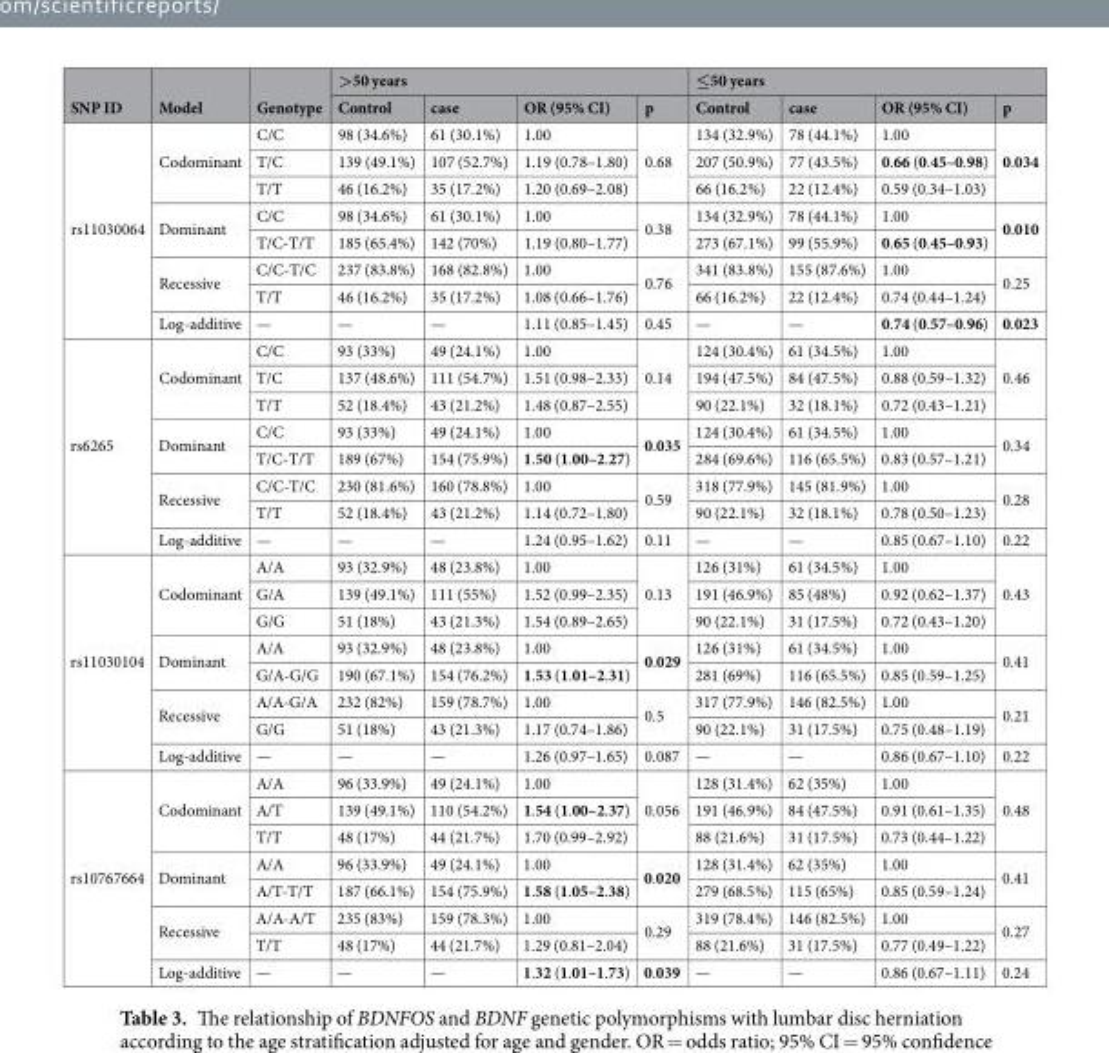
<table><thead><tr><td rowspan="2">SNP ID</td><td rowspan="2">Model</td><td rowspan="2">Genotype</td><td colspan="4">&gt;50 years</td><td colspan="4">≤50 years</td></tr><tr><td>Control</td><td>case</td><td>OR (95% CI)</td><td>p</td><td>Control</td><td>case</td><td>OR (95% CI)</td><td>p</td></tr></thead><tbody><tr><td rowspan="8">rs11030064</td><td rowspan="3">Codominant</td><td>C/C</td><td>98 (34.6%)</td><td>61 (30.1%)</td><td>1.00</td><td rowspan="3">0.68</td><td>134 (32.9%)</td><td>78 (44.1%)</td><td>1.00</td><td rowspan="3">0.034</td></tr><tr><td>T/C</td><td>139 (49.1%)</td><td>107 (52.7%)</td><td>1.19 (0.78–1.80)</td><td>207 (50.9%)</td><td>77 (43.5%)</td><td>0.66 (0.45–0.98)</td></tr><tr><td>T/T</td><td>46 (16.2%)</td><td>35 (17.2%)</td><td>1.20 (0.69–2.08)</td><td>66 (16.2%)</td><td>22 (12.4%)</td><td>0.59 (0.34–1.03)</td></tr><tr><td rowspan="2">Dominant</td><td>C/C</td><td>98 (34.6%)</td><td>61 (30.1%)</td><td>1.00</td><td rowspan="2">0.38</td><td>134 (32.9%)</td><td>78 (44.1%)</td><td>1.00</td><td rowspan="2">0.010</td></tr><tr><td>T/C-T/T</td><td>185 (65.4%)</td><td>142 (70%)</td><td>1.19 (0.80–1.77)</td><td>273 (67.1%)</td><td>99 (55.9%)</td><td>0.65 (0.45–0.93)</td></tr><tr><td rowspan="2">Recessive</td><td>C/C-T/C</td><td>237 (83.8%)</td><td>168 (82.8%)</td><td>1.00</td><td rowspan="2">0.76</td><td>341 (83.8%)</td><td>155 (87.6%)</td><td>1.00</td><td rowspan="2">0.25</td></tr><tr><td>T/T</td><td>46 (16.2%)</td><td>35 (17.2%)</td><td>1.08 (0.66–1.76)</td><td>66 (16.2%)</td><td>22 (12.4%)</td><td>0.74 (0.44–1.24)</td></tr><tr><td>Log-additive</td><td>—</td><td>—</td><td>—</td><td>1.11 (0.85–1.45)</td><td>0.45</td><td>—</td><td>—</td><td>0.74 (0.57–0.96)</td><td>0.023</td></tr><tr><td rowspan="8">rs6265</td><td rowspan="3">Codominant</td><td>C/C</td><td>93 (33%)</td><td>49 (24.1%)</td><td>1.00</td><td rowspan="3">0.14</td><td>124 (30.4%)</td><td>61 (34.5%)</td><td>1.00</td><td rowspan="3">0.46</td></tr><tr><td>T/C</td><td>137 (48.6%)</td><td>111 (54.7%)</td><td>1.51 (0.98–2.33)</td><td>194 (47.5%)</td><td>84 (47.5%)</td><td>0.88 (0.59–1.32)</td></tr><tr><td>T/T</td><td>52 (18.4%)</td><td>43 (21.2%)</td><td>1.48 (0.87–2.55)</td><td>90 (22.1%)</td><td>32 (18.1%)</td><td>0.72 (0.43–1.21)</td></tr><tr><td rowspan="2">Dominant</td><td>C/C</td><td>93 (33%)</td><td>49 (24.1%)</td><td>1.00</td><td rowspan="2">0.035</td><td>124 (30.4%)</td><td>61 (34.5%)</td><td>1.00</td><td rowspan="2">0.34</td></tr><tr><td>T/C-T/T</td><td>189 (67%)</td><td>154 (75.9%)</td><td>1.50 (1.00–2.27)</td><td>284 (69.6%)</td><td>116 (65.5%)</td><td>0.83 (0.57–1.21)</td></tr><tr><td rowspan="2">Recessive</td><td>C/C-T/C</td><td>230 (81.6%)</td><td>160 (78.8%)</td><td>1.00</td><td rowspan="2">0.59</td><td>318 (77.9%)</td><td>145 (81.9%)</td><td>1.00</td><td rowspan="2">0.28</td></tr><tr><td>T/T</td><td>52 (18.4%)</td><td>43 (21.2%)</td><td>1.14 (0.72–1.80)</td><td>90 (22.1%)</td><td>32 (18.1%)</td><td>0.78 (0.50–1.23)</td></tr><tr><td>Log-additive</td><td>—</td><td>—</td><td>—</td><td>1.24 (0.95–1.62)</td><td>0.11</td><td>—</td><td>—</td><td>0.85 (0.67–1.10)</td><td>0.22</td></tr><tr><td rowspan="8">rs11030104</td><td rowspan="3">Codominant</td><td>A/A</td><td>93 (32.9%)</td><td>48 (23.8%)</td><td>1.00</td><td rowspan="3">0.13</td><td>126 (31%)</td><td>61 (34.5%)</td><td>1.00</td><td rowspan="3">0.43</td></tr><tr><td>G/A</td><td>139 (49.1%)</td><td>111 (55%)</td><td>1.52 (0.99–2.35)</td><td>191 (46.9%)</td><td>85 (48%)</td><td>0.92 (0.62–1.37)</td></tr><tr><td>G/G</td><td>51 (18%)</td><td>43 (21.3%)</td><td>1.54 (0.89–2.65)</td><td>90 (22.1%)</td><td>31 (17.5%)</td><td>0.72 (0.43–1.20)</td></tr><tr><td rowspan="2">Dominant</td><td>A/A</td><td>93 (32.9%)</td><td>48 (23.8%)</td><td>1.00</td><td rowspan="2">0.029</td><td>126 (31%)</td><td>61 (34.5%)</td><td>1.00</td><td rowspan="2">0.41</td></tr><tr><td>G/A-G/G</td><td>190 (67.1%)</td><td>154 (76.2%)</td><td>1.53 (1.01–2.31)</td><td>281 (69%)</td><td>116 (65.5%)</td><td>0.85 (0.59–1.25)</td></tr><tr><td rowspan="2">Recessive</td><td>A/A-G/A</td><td>232 (82%)</td><td>159 (78.7%)</td><td>1.00</td><td rowspan="2">0.5</td><td>317 (77.9%)</td><td>146 (82.5%)</td><td>1.00</td><td rowspan="2">0.21</td></tr><tr><td>G/G</td><td>51 (18%)</td><td>43 (21.3%)</td><td>1.17 (0.74–1.86)</td><td>90 (22.1%)</td><td>31 (17.5%)</td><td>0.75 (0.48–1.19)</td></tr><tr><td>Log-additive</td><td>—</td><td>—</td><td>—</td><td>1.26 (0.97–1.65)</td><td>0.087</td><td>—</td><td>—</td><td>0.86 (0.67–1.10)</td><td>0.22</td></tr><tr><td rowspan="8">rs10767664</td><td rowspan="3">Codominant</td><td>A/A</td><td>96 (33.9%)</td><td>49 (24.1%)</td><td>1.00</td><td rowspan="3">0.056</td><td>128 (31.4%)</td><td>62 (35%)</td><td>1.00</td><td rowspan="3">0.48</td></tr><tr><td>A/T</td><td>139 (49.1%)</td><td>110 (54.2%)</td><td>1.54 (1.00–2.37)</td><td>191 (46.9%)</td><td>84 (47.5%)</td><td>0.91 (0.61–1.35)</td></tr><tr><td>T/T</td><td>48 (17%)</td><td>44 (21.7%)</td><td>1.70 (0.99–2.92)</td><td>88 (21.6%)</td><td>31 (17.5%)</td><td>0.73 (0.44–1.22)</td></tr><tr><td rowspan="2">Dominant</td><td>A/A</td><td>96 (33.9%)</td><td>49 (24.1%)</td><td>1.00</td><td rowspan="2">0.020</td><td>128 (31.4%)</td><td>62 (35%)</td><td>1.00</td><td rowspan="2">0.41</td></tr><tr><td>A/T-T/T</td><td>187 (66.1%)</td><td>154 (75.9%)</td><td>1.58 (1.05–2.38)</td><td>279 (68.5%)</td><td>115 (65%)</td><td>0.85 (0.59–1.24)</td></tr><tr><td rowspan="2">Recessive</td><td>A/A-A/T</td><td>235 (83%)</td><td>159 (78.3%)</td><td>1.00</td><td rowspan="2">0.29</td><td>319 (78.4%)</td><td>146 (82.5%)</td><td>1.00</td><td rowspan="2">0.27</td></tr><tr><td>T/T</td><td>48 (17%)</td><td>44 (21.7%)</td><td>1.29 (0.81–2.04)</td><td>88 (21.6%)</td><td>31 (17.5%)</td><td>0.77 (0.49–1.22)</td></tr><tr><td>Log-additive</td><td>—</td><td>—</td><td>—</td><td>1.32 (1.01–1.73)</td><td>0.039</td><td>—</td><td>—</td><td>0.86 (0.67–1.11)</td><td>0.24</td></tr></tbody></table>